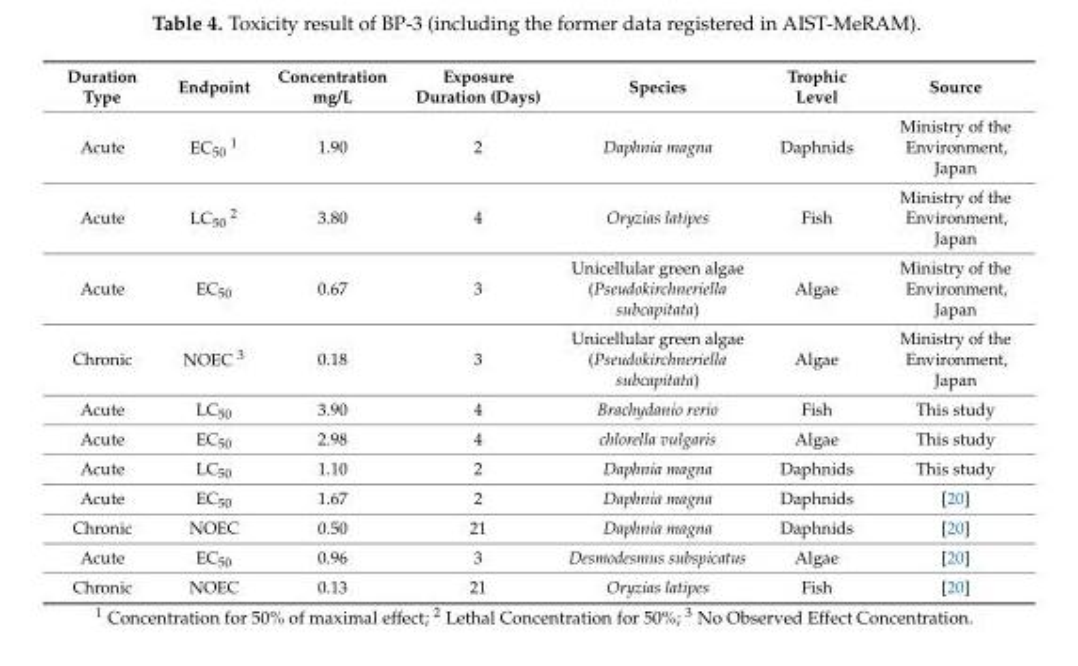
<table><thead><tr><td>Duration Type</td><td>Endpoint</td><td>Concentration mg/L</td><td>Exposure Duration (Days)</td><td>Species</td><td>Trophic Level</td><td>Source</td></tr></thead><tbody><tr><td>Acute</td><td>EC<sub>50</sub> <sup>1</sup></td><td>1.90</td><td>2</td><td>Daphnia magna</td><td>Daphnids</td><td>Ministry of the Environment, Japan</td></tr><tr><td>Acute</td><td>LC<sub>50</sub> <sup>2</sup></td><td>3.80</td><td>4</td><td>Oryzias latipes</td><td>Fish</td><td>Ministry of the Environment, Japan</td></tr><tr><td>Acute</td><td>EC<sub>50</sub></td><td>0.67</td><td>3</td><td>Unicellular green algae (Pseudokirchneriella subcapitata)</td><td>Algae</td><td>Ministry of the Environment, Japan</td></tr><tr><td>Chronic</td><td>NOEC <sup>3</sup></td><td>0.18</td><td>3</td><td>Unicellular green algae (Pseudokirchneriella subcapitata)</td><td>Algae</td><td>Ministry of the Environment, Japan</td></tr><tr><td>Acute</td><td>LC<sub>50</sub></td><td>3.90</td><td>4</td><td>Brachydanio rerio</td><td>Fish</td><td>This study</td></tr><tr><td>Acute</td><td>EC<sub>50</sub></td><td>2.98</td><td>4</td><td>chlorella vulgaris</td><td>Algae</td><td>This study</td></tr><tr><td>Acute</td><td>LC<sub>50</sub></td><td>1.10</td><td>2</td><td>Daphnia magna</td><td>Daphnids</td><td>This study</td></tr><tr><td>Acute</td><td>EC<sub>50</sub></td><td>1.67</td><td>2</td><td>Daphnia magna</td><td>Daphnids</td><td>[20]</td></tr><tr><td>Chronic</td><td>NOEC</td><td>0.50</td><td>21</td><td>Daphnia magna</td><td>Daphnids</td><td>[20]</td></tr><tr><td>Acute</td><td>EC<sub>50</sub></td><td>0.96</td><td>3</td><td>Desmodesmus subspicatus</td><td>Algae</td><td>[20]</td></tr><tr><td>Chronic</td><td>NOEC</td><td>0.13</td><td>21</td><td>Oryzias latipes</td><td>Fish</td><td>[20]</td></tr></tbody></table>